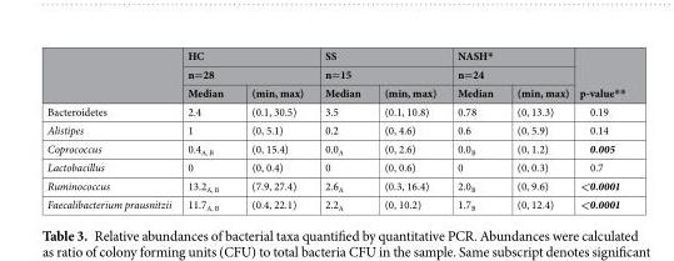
<table><thead><tr><td rowspan="3"></td><td rowspan="2" colspan="2">HC n=28</td><td rowspan="2" colspan="2">SS n=15</td><td rowspan="2" colspan="2">NASH* n=24</td><td rowspan="3">p-value**</td></tr><tr></tr><tr><td>Median</td><td>(min, max)</td><td>Median</td><td>(min, max)</td><td>Median</td><td>(min, max)</td></tr></thead><tbody><tr><td>Bacteroidetes</td><td>2.4</td><td>(0.1, 30.5)</td><td>3.5</td><td>(0.1, 10.8)</td><td>0.78</td><td>(0, 13.3)</td><td>0.19</td></tr><tr><td>Alistipes</td><td>1</td><td>(0, 5.1)</td><td>0.2</td><td>(0, 4.6)</td><td>0.6</td><td>(0, 5.9)</td><td>0.14</td></tr><tr><td>Coprococcus</td><td>0.4<sub>A, B</sub></td><td>(0, 15.4)</td><td>0.0<sub>A</sub></td><td>(0, 2.6)</td><td>0.0<sub>B</sub></td><td>(0, 1.2)</td><td>0.005</td></tr><tr><td>Lactobacillus</td><td>0</td><td>(0, 0.4)</td><td>0</td><td>(0, 0.6)</td><td>0</td><td>(0, 0.3)</td><td>0.7</td></tr><tr><td>Ruminococcus</td><td>13.2<sub>A, B</sub></td><td>(7.9, 27.4)</td><td>2.6<sub>A</sub></td><td>(0.3, 16.4)</td><td>2.0<sub>B</sub></td><td>(0, 9.6)</td><td>&lt;0.0001</td></tr><tr><td>Faecalibacterium prausnitzii</td><td>11.7<sub>A, B</sub></td><td>(0.4, 22.1)</td><td>2.2<sub>A</sub></td><td>(0, 10.2)</td><td>1.7<sub>B</sub></td><td>(0, 12.4)</td><td>&lt;0.0001</td></tr></tbody></table>